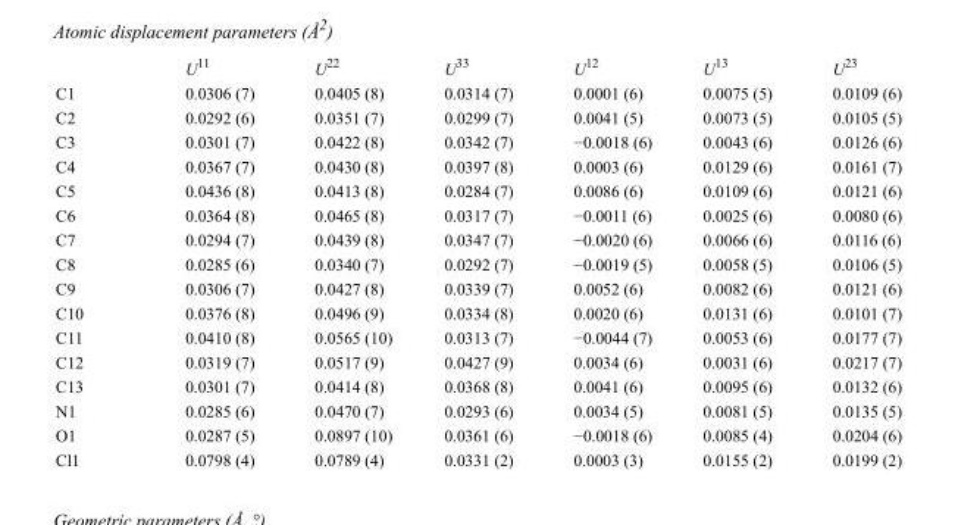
<table><thead><tr><td></td><td>U<sup>11</sup></td><td>U<sup>22</sup></td><td>U<sup>33</sup></td><td>U<sup>12</sup></td><td>U<sup>13</sup></td><td>U<sup>23</sup></td></tr></thead><tbody><tr><td>C1</td><td>0.0306 (7)</td><td>0.0405 (8)</td><td>0.0314 (7)</td><td>0.0001 (6)</td><td>0.0075 (5)</td><td>0.0109 (6)</td></tr><tr><td>C2</td><td>0.0292 (6)</td><td>0.0351 (7)</td><td>0.0299 (7)</td><td>0.0041 (5)</td><td>0.0073 (5)</td><td>0.0105 (5)</td></tr><tr><td>C3</td><td>0.0301 (7)</td><td>0.0422 (8)</td><td>0.0342 (7)</td><td>−0.0018 (6)</td><td>0.0043 (6)</td><td>0.0126 (6)</td></tr><tr><td>C4</td><td>0.0367 (7)</td><td>0.0430 (8)</td><td>0.0397 (8)</td><td>0.0003 (6)</td><td>0.0129 (6)</td><td>0.0161 (7)</td></tr><tr><td>C5</td><td>0.0436 (8)</td><td>0.0413 (8)</td><td>0.0284 (7)</td><td>0.0086 (6)</td><td>0.0109 (6)</td><td>0.0121 (6)</td></tr><tr><td>C6</td><td>0.0364 (8)</td><td>0.0465 (8)</td><td>0.0317 (7)</td><td>−0.0011 (6)</td><td>0.0025 (6)</td><td>0.0080 (6)</td></tr><tr><td>C7</td><td>0.0294 (7)</td><td>0.0439 (8)</td><td>0.0347 (7)</td><td>−0.0020 (6)</td><td>0.0066 (6)</td><td>0.0116 (6)</td></tr><tr><td>C8</td><td>0.0285 (6)</td><td>0.0340 (7)</td><td>0.0292 (7)</td><td>−0.0019 (5)</td><td>0.0058 (5)</td><td>0.0106 (5)</td></tr><tr><td>C9</td><td>0.0306 (7)</td><td>0.0427 (8)</td><td>0.0339 (7)</td><td>0.0052 (6)</td><td>0.0082 (6)</td><td>0.0121 (6)</td></tr><tr><td>C10</td><td>0.0376 (8)</td><td>0.0496 (9)</td><td>0.0334 (8)</td><td>0.0020 (6)</td><td>0.0131 (6)</td><td>0.0101 (7)</td></tr><tr><td>C11</td><td>0.0410 (8)</td><td>0.0565 (10)</td><td>0.0313 (7)</td><td>−0.0044 (7)</td><td>0.0053 (6)</td><td>0.0177 (7)</td></tr><tr><td>C12</td><td>0.0319 (7)</td><td>0.0517 (9)</td><td>0.0427 (9)</td><td>0.0034 (6)</td><td>0.0031 (6)</td><td>0.0217 (7)</td></tr><tr><td>C13</td><td>0.0301 (7)</td><td>0.0414 (8)</td><td>0.0368 (8)</td><td>0.0041 (6)</td><td>0.0095 (6)</td><td>0.0132 (6)</td></tr><tr><td>N1</td><td>0.0285 (6)</td><td>0.0470 (7)</td><td>0.0293 (6)</td><td>0.0034 (5)</td><td>0.0081 (5)</td><td>0.0135 (5)</td></tr><tr><td>O1</td><td>0.0287 (5)</td><td>0.0897 (10)</td><td>0.0361 (6)</td><td>−0.0018 (6)</td><td>0.0085 (4)</td><td>0.0204 (6)</td></tr><tr><td>Cl1</td><td>0.0798 (4)</td><td>0.0789 (4)</td><td>0.0331 (2)</td><td>0.0003 (3)</td><td>0.0155 (2)</td><td>0.0199 (2)</td></tr></tbody></table>